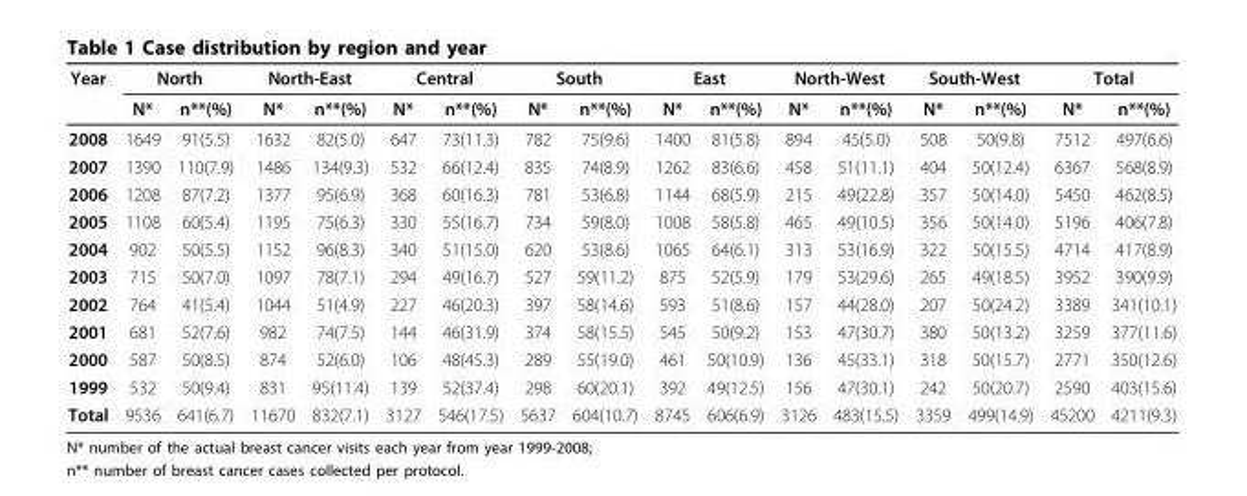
<table><thead><tr><td rowspan="2">Year</td><td colspan="2">North</td><td colspan="2">North-East</td><td colspan="2">Central</td><td colspan="2">South</td><td colspan="2">East</td><td colspan="2">North-West</td><td colspan="2">South-West</td><td colspan="2">Total</td></tr><tr><td>N*</td><td>n**(%)</td><td>N*</td><td>n**(%)</td><td>N*</td><td>n**(%)</td><td>N*</td><td>n**(%)</td><td>N*</td><td>n**(%)</td><td>N*</td><td>n**(%)</td><td>N*</td><td>n**(%)</td><td>N*</td><td>n**(%)</td></tr></thead><tbody><tr><td>2008</td><td>1649</td><td>91(5.5)</td><td>1632</td><td>82(5.0)</td><td>647</td><td>73(11.3)</td><td>782</td><td>75(9.6)</td><td>1400</td><td>81(5.8)</td><td>894</td><td>45(5.0)</td><td>508</td><td>50(9.8)</td><td>7512</td><td>497(6.6)</td></tr><tr><td>2007</td><td>1390</td><td>110(7.9)</td><td>1486</td><td>134(9.3)</td><td>532</td><td>66(12.4)</td><td>835</td><td>74(8.9)</td><td>1262</td><td>83(6.6)</td><td>458</td><td>51(11.1)</td><td>404</td><td>50(12.4)</td><td>6367</td><td>568(8.9)</td></tr><tr><td>2006</td><td>1208</td><td>87(7.2)</td><td>1377</td><td>95(6.9)</td><td>368</td><td>60(16.3)</td><td>781</td><td>53(6.8)</td><td>1144</td><td>68(5.9)</td><td>215</td><td>49(22.8)</td><td>357</td><td>50(14.0)</td><td>5450</td><td>462(8.5)</td></tr><tr><td>2005</td><td>1108</td><td>60(5.4)</td><td>1195</td><td>75(6.3)</td><td>330</td><td>55(16.7)</td><td>734</td><td>59(8.0)</td><td>1008</td><td>58(5.8)</td><td>465</td><td>49(10.5)</td><td>356</td><td>50(14.0)</td><td>5196</td><td>406(7.8)</td></tr><tr><td>2004</td><td>902</td><td>50(5.5)</td><td>1152</td><td>96(8.3)</td><td>340</td><td>51(15.0)</td><td>620</td><td>53(8.6)</td><td>1065</td><td>64(6.1)</td><td>313</td><td>53(16.9)</td><td>322</td><td>50(15.5)</td><td>4714</td><td>417(8.9)</td></tr><tr><td>2003</td><td>715</td><td>50(7.0)</td><td>1097</td><td>78(7.1)</td><td>294</td><td>49(16.7)</td><td>527</td><td>59(11.2)</td><td>875</td><td>52(5.9)</td><td>179</td><td>53(29.6)</td><td>265</td><td>49(18.5)</td><td>3952</td><td>390(9.9)</td></tr><tr><td>2002</td><td>764</td><td>41(5.4)</td><td>1044</td><td>51(4.9)</td><td>227</td><td>46(20.3)</td><td>397</td><td>58(14.6)</td><td>593</td><td>51(8.6)</td><td>157</td><td>44(28.0)</td><td>207</td><td>50(24.2)</td><td>3389</td><td>341(10.1)</td></tr><tr><td>2001</td><td>681</td><td>52(7.6)</td><td>982</td><td>74(7.5)</td><td>144</td><td>46(31.9)</td><td>374</td><td>58(15.5)</td><td>545</td><td>50(9.2)</td><td>153</td><td>47(30.7)</td><td>380</td><td>50(13.2)</td><td>3259</td><td>377(11.6)</td></tr><tr><td>2000</td><td>587</td><td>50(8.5)</td><td>874</td><td>52(6.0)</td><td>106</td><td>48(45.3)</td><td>289</td><td>55(19.0)</td><td>461</td><td>50(10.9)</td><td>136</td><td>45(33.1)</td><td>318</td><td>50(15.7)</td><td>2771</td><td>350(12.6)</td></tr><tr><td>1999</td><td>532</td><td>50(9.4)</td><td>831</td><td>95(11.4)</td><td>139</td><td>52(37.4)</td><td>298</td><td>60(20.1)</td><td>392</td><td>49(12.5)</td><td>156</td><td>47(30.1)</td><td>242</td><td>50(20.7)</td><td>2590</td><td>403(15.6)</td></tr><tr><td>Total</td><td>9536</td><td>641(6.7)</td><td>11670</td><td>832(7.1)</td><td>3127</td><td>546(17.5)</td><td>5637</td><td>604(10.7)</td><td>8745</td><td>606(6.9)</td><td>3126</td><td>483(15.5)</td><td>3359</td><td>499(14.9)</td><td>45200</td><td>4211(9.3)</td></tr></tbody></table>